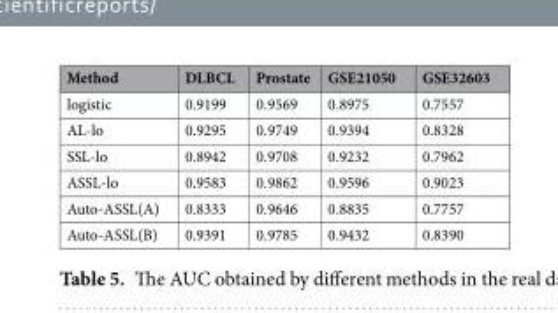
<table><thead><tr><td>Method</td><td>DLBCL</td><td>Prostate</td><td>GSE21050</td><td>GSE32603</td></tr></thead><tbody><tr><td>logistic</td><td>0.9199</td><td>0.9569</td><td>0.8975</td><td>0.7557</td></tr><tr><td>AL-lo</td><td>0.9295</td><td>0.9749</td><td>0.9394</td><td>0.8328</td></tr><tr><td>SSL-lo</td><td>0.8942</td><td>0.9708</td><td>0.9232</td><td>0.7962</td></tr><tr><td>ASSL-lo</td><td>0.9583</td><td>0.9862</td><td>0.9596</td><td>0.9023</td></tr><tr><td>Auto-ASSL(A)</td><td>0.8333</td><td>0.9646</td><td>0.8835</td><td>0.7757</td></tr><tr><td>Auto-ASSL(B)</td><td>0.9391</td><td>0.9785</td><td>0.9432</td><td>0.8390</td></tr></tbody></table>